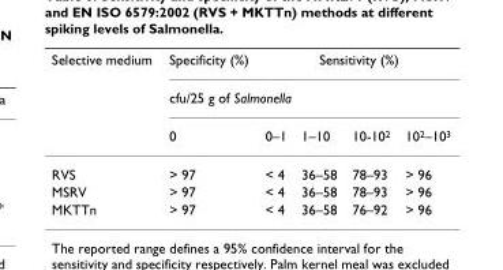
<table><thead><tr><td rowspan="3">Selective medium</td><td>Specificity (%)</td><td colspan="4">Sensitivity (%)</td></tr><tr><td colspan="5">cfu/25 g of Salmonella</td></tr><tr><td>0</td><td>0–1</td><td>1–10</td><td>10-10<sup>2</sup></td><td>10<sup>2</sup>–10<sup>3</sup></td></tr></thead><tbody><tr><td>RVS</td><td>&gt; 97</td><td>&lt; 4</td><td>36–58</td><td>78–93</td><td>&gt; 96</td></tr><tr><td>MSRV</td><td>&gt; 97</td><td>&lt; 4</td><td>36–58</td><td>78–93</td><td>&gt; 96</td></tr><tr><td>MKTTn</td><td>&gt; 97</td><td>&lt; 4</td><td>36–58</td><td>76–92</td><td>&gt; 96</td></tr></tbody></table>